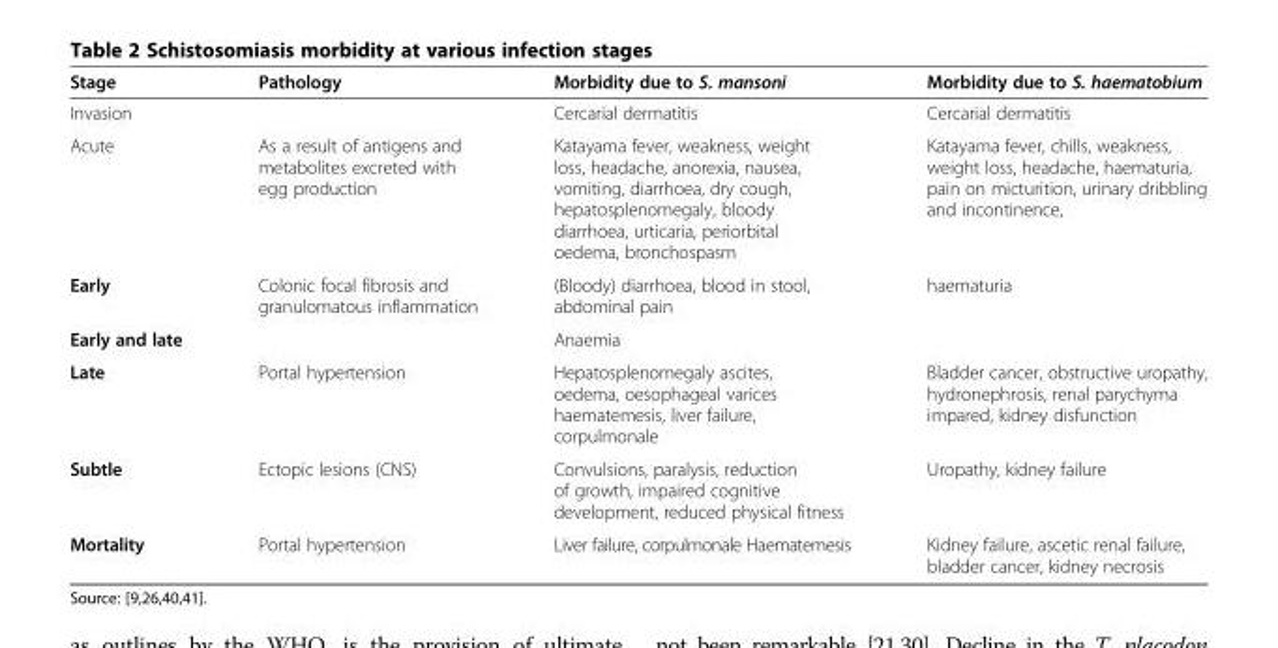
<table><thead><tr><td>Stage</td><td>Pathology</td><td>Morbidity due to S. mansoni</td><td>Morbidity due to S. haematobium</td></tr></thead><tbody><tr><td>Invasion</td><td></td><td>Cercarial dermatitis</td><td>Cercarial dermatitis</td></tr><tr><td>Acute</td><td>As a result of antigens and metabolites excreted with egg production</td><td>Katayama fever, weakness, weight loss, headache, anorexia, nausea, vomiting, diarrhoea, dry cough, hepatosplenomegaly, bloody diarrhoea, urticaria, periorbital oedema, bronchospasm</td><td>Katayama fever, chills, weakness, weight loss, headache, haematuria, pain on micturition, urinary dribbling and incontinence,</td></tr><tr><td>Early</td><td>Colonic focal fibrosis and granulomatous inflammation</td><td>(Bloody) diarrhoea, blood in stool, abdominal pain</td><td>haematuria</td></tr><tr><td>Early and late</td><td></td><td>Anaemia</td><td></td></tr><tr><td>Late</td><td>Portal hypertension</td><td>Hepatosplenomegaly ascites, oedema, oesophageal varices haematemesis, liver failure, corpulmonale</td><td>Bladder cancer, obstructive uropathy, hydronephrosis, renal parychyma impared, kidney disfunction</td></tr><tr><td>Subtle</td><td>Ectopic lesions (CNS)</td><td>Convulsions, paralysis, reduction of growth, impaired cognitive development, reduced physical fitness</td><td>Uropathy, kidney failure</td></tr><tr><td>Mortality</td><td>Portal hypertension</td><td>Liver failure, corpulmonale Haematemesis</td><td>Kidney failure, ascetic renal failure, bladder cancer, kidney necrosis</td></tr></tbody></table>